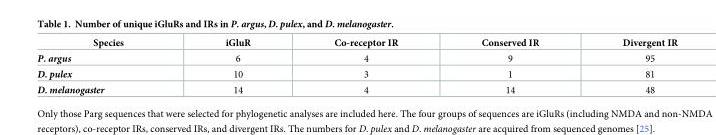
<table><thead><tr><td>Species</td><td>iGluR</td><td>Co-receptor IR</td><td>Conserved IR</td><td>Divergent IR</td></tr></thead><tbody><tr><td>P. argus</td><td>6</td><td>4</td><td>9</td><td>95</td></tr><tr><td>D. pulex</td><td>10</td><td>3</td><td>1</td><td>81</td></tr><tr><td>D. melanogaster</td><td>14</td><td>4</td><td>14</td><td>48</td></tr></tbody></table>